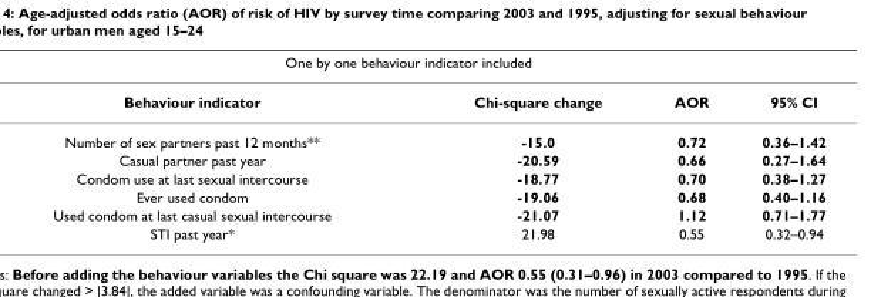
<table><thead><tr><td colspan="4">One by one behaviour indicator included</td></tr><tr><td>Behaviour indicator</td><td>Chi-square change</td><td>AOR</td><td>95% CI</td></tr></thead><tbody><tr><td>Number of sex partners past 12 months**</td><td>-15.0</td><td>0.72</td><td>0.36–1.42</td></tr><tr><td>Casual partner past year</td><td>-20.59</td><td>0.66</td><td>0.27–1.64</td></tr><tr><td>Condom use at last sexual intercourse</td><td>-18.77</td><td>0.70</td><td>0.38–1.27</td></tr><tr><td>Ever used condom</td><td>-19.06</td><td>0.68</td><td>0.40–1.16</td></tr><tr><td>Used condom at last casual sexual intercourse</td><td>-21.07</td><td>1.12</td><td>0.71–1.77</td></tr><tr><td>STI past year*</td><td>21.98</td><td>0.55</td><td>0.32–0.94</td></tr></tbody></table>